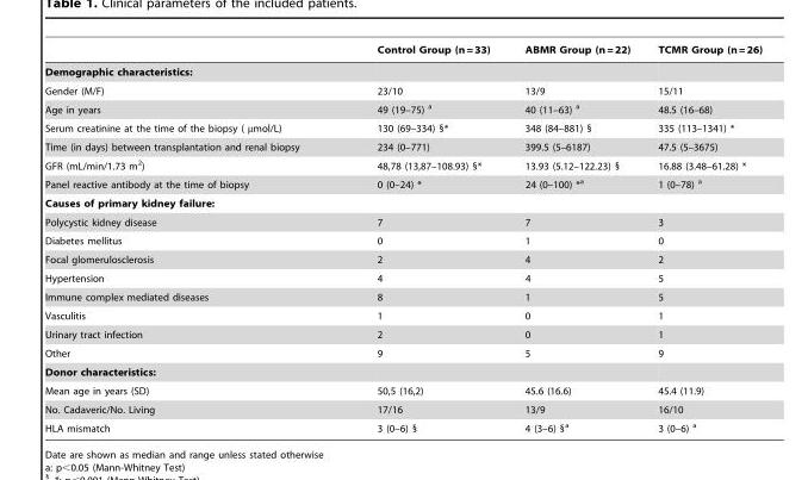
<table><thead><tr><td></td><td>Control Group (n = 33)</td><td>ABMR Group (n = 22)</td><td>TCMR Group (n = 26)</td></tr></thead><tbody><tr><td colspan="4">Demographic characteristics:</td></tr><tr><td>Gender (M/F)</td><td>23/10</td><td>13/9</td><td>15/11</td></tr><tr><td>Age in years</td><td>49 (19–75) <sup>a</sup></td><td>40 (11–63) <sup>a</sup></td><td>48.5 (16–68)</td></tr><tr><td>Serum creatinine at the time of the biopsy ( µmol/L)</td><td>130 (69–334) §*</td><td>348 (84–881) §</td><td>335 (113–1341) *</td></tr><tr><td>Time (in days) between transplantation and renal biopsy</td><td>234 (0–771)</td><td>399.5 (5–6187)</td><td>47.5 (5–3675)</td></tr><tr><td>GFR (mL/min/1.73 m<sup>2</sup>)</td><td>48,78 (13,87–108.93) §*</td><td>13.93 (5.12–122.23) §</td><td>16.88 (3.48–61.28) *</td></tr><tr><td>Panel reactive antibody at the time of biopsy</td><td>0 (0–24) *</td><td>24 (0–100) *<sup>a</sup></td><td>1 (0–78) <sup>a</sup></td></tr><tr><td colspan="4">Causes of primary kidney failure:</td></tr><tr><td>Polycystic kidney disease</td><td>7</td><td>7</td><td>3</td></tr><tr><td>Diabetes mellitus</td><td>0</td><td>1</td><td>0</td></tr><tr><td>Focal glomerulosclerosis</td><td>2</td><td>4</td><td>2</td></tr><tr><td>Hypertension</td><td>4</td><td>4</td><td>5</td></tr><tr><td>Immune complex mediated diseases</td><td>8</td><td>1</td><td>5</td></tr><tr><td>Vasculitis</td><td>1</td><td>0</td><td>1</td></tr><tr><td>Urinary tract infection</td><td>2</td><td>0</td><td>1</td></tr><tr><td>Other</td><td>9</td><td>5</td><td>9</td></tr><tr><td colspan="4">Donor characteristics:</td></tr><tr><td>Mean age in years (SD)</td><td>50,5 (16,2)</td><td>45.6 (16.6)</td><td>45.4 (11.9)</td></tr><tr><td>No. Cadaveric/No. Living</td><td>17/16</td><td>13/9</td><td>16/10</td></tr><tr><td>HLA mismatch</td><td>3 (0–6) §</td><td>4 (3–6) §<sup>a</sup></td><td>3 (0–6) <sup>a</sup></td></tr></tbody></table>